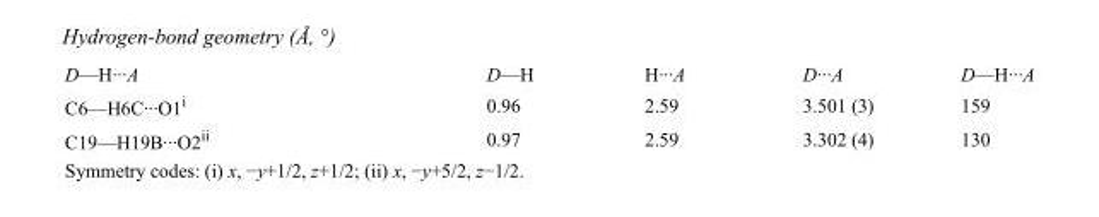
<table><tbody><tr><td>D—H···A</td><td>D—H</td><td>H···A</td><td>D···A</td><td>D—H···A</td></tr><tr><td>C6—H6C···O1<sup>i</sup></td><td>0.96</td><td>2.59</td><td>3.501 (3)</td><td>159</td></tr><tr><td>C19—H19B···O2<sup>ii</sup></td><td>0.97</td><td>2.59</td><td>3.302 (4)</td><td>130</td></tr></tbody></table>